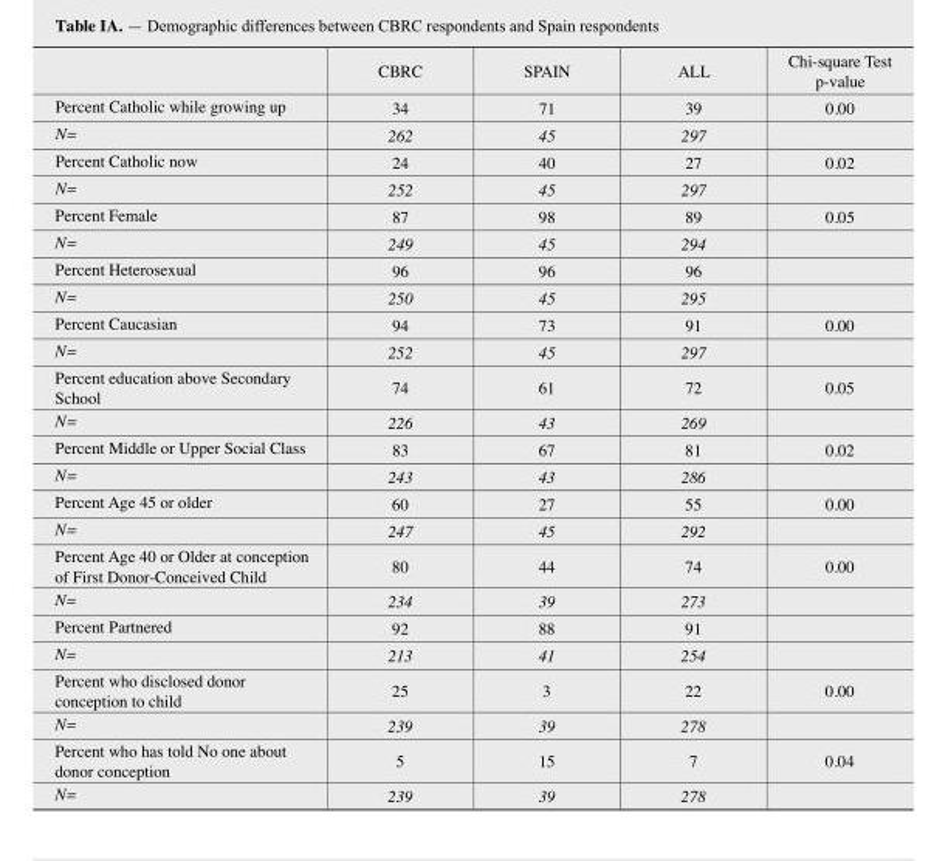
<table><thead><tr><td></td><td>CBRC</td><td>SPAIN</td><td>ALL</td><td>Chi-square Test p-value</td></tr></thead><tbody><tr><td>Percent Catholic while growing up</td><td>34</td><td>71</td><td>39</td><td>0.00</td></tr><tr><td>N=</td><td>262</td><td>45</td><td>297</td><td></td></tr><tr><td>Percent Catholic now</td><td>24</td><td>40</td><td>27</td><td>0.02</td></tr><tr><td>N=</td><td>252</td><td>45</td><td>297</td><td></td></tr><tr><td>Percent Female</td><td>87</td><td>98</td><td>89</td><td>0.05</td></tr><tr><td>N=</td><td>249</td><td>45</td><td>294</td><td></td></tr><tr><td>Percent Heterosexual</td><td>96</td><td>96</td><td>96</td><td></td></tr><tr><td>N=</td><td>250</td><td>45</td><td>295</td><td></td></tr><tr><td>Percent Caucasian</td><td>94</td><td>73</td><td>91</td><td>0.00</td></tr><tr><td>N=</td><td>252</td><td>45</td><td>297</td><td></td></tr><tr><td>Percent education above Secondary School</td><td>74</td><td>61</td><td>72</td><td>0.05</td></tr><tr><td>N=</td><td>226</td><td>43</td><td>269</td><td></td></tr><tr><td>Percent Middle or Upper Social Class</td><td>83</td><td>67</td><td>81</td><td>0.02</td></tr><tr><td>N=</td><td>243</td><td>43</td><td>286</td><td></td></tr><tr><td>Percent Age 45 or older</td><td>60</td><td>27</td><td>55</td><td>0.00</td></tr><tr><td>N=</td><td>247</td><td>45</td><td>292</td><td></td></tr><tr><td>Percent Age 40 or Older at conception of First Donor-Conceived Child</td><td>80</td><td>44</td><td>74</td><td>0.00</td></tr><tr><td>N=</td><td>234</td><td>39</td><td>273</td><td></td></tr><tr><td>Percent Partnered</td><td>92</td><td>88</td><td>91</td><td></td></tr><tr><td>N=</td><td>213</td><td>41</td><td>254</td><td></td></tr><tr><td>Percent who disclosed donor conception to child</td><td>25</td><td>3</td><td>22</td><td>0.00</td></tr><tr><td>N=</td><td>239</td><td>39</td><td>278</td><td></td></tr><tr><td>Percent who has told No one about donor conception</td><td>5</td><td>15</td><td>7</td><td>0.04</td></tr><tr><td>N=</td><td>239</td><td>39</td><td>278</td><td></td></tr></tbody></table>